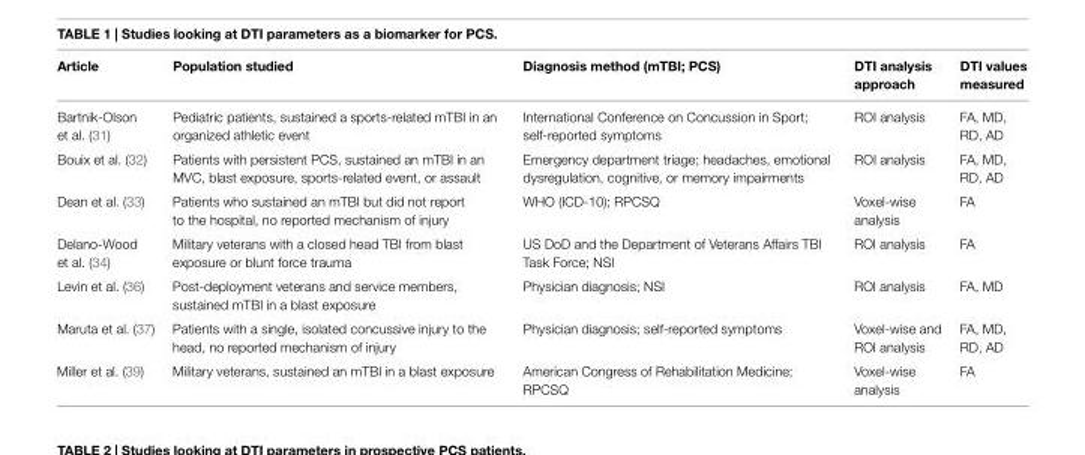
<table><thead><tr><td>Article</td><td>Population studied</td><td>Diagnosis method (mTBi; PCS)</td><td>DTi analysis approach</td><td>DTi values measured</td></tr></thead><tbody><tr><td>Bartnik-Olson et al. (31)</td><td>Pediatric patients, sustained a sports-related mTBI in an organized athletic event</td><td>International Conference on Concussion in Sport; self-reported symptoms</td><td>ROI analysis</td><td>FA, MD, RD, AD</td></tr><tr><td>Bouix et al. (32)</td><td>Patients with persistent PCS, sustained an mTBI in an MVC, blast exposure, sports-related event, or assault</td><td>Emergency department triage; headaches, emotional dysregulation, cognitive, or memory impairments</td><td>ROI analysis</td><td>FA, MD, RD, AD</td></tr><tr><td>Dean et al. (33)</td><td>Patients who sustained an mTBI but did not report to the hospital, no reported mechanism of injury</td><td>WHO (ICD-10); RPCSQ</td><td>Voxel-wise analysis</td><td>FA</td></tr><tr><td>Delano-Wood et al. (34)</td><td>Military veterans with a closed head TBI from blast exposure or blunt force trauma</td><td>US DoD and the Department of Veterans Affairs TBI Task Force; NSI</td><td>ROI analysis</td><td>FA</td></tr><tr><td>Levin et al. (36)</td><td>Post-deployment veterans and service members, sustained mTBI in a blast exposure</td><td>Physician diagnosis; NSI</td><td>ROI analysis</td><td>FA, MD</td></tr><tr><td>Maruta et al. (37)</td><td>Patients with a single, isolated concussive injury to the head, no reported mechanism of injury</td><td>Physician diagnosis; self-reported symptoms</td><td>Voxel-wise and ROI analysis</td><td>FA, MD, RD, AD</td></tr><tr><td>Miller et al. (39)</td><td>Military veterans, sustained an mTBI in a blast exposure</td><td>American Congress of Rehabilitation Medicine; RPCSQ</td><td>Voxel-wise analysis</td><td>FA</td></tr></tbody></table>